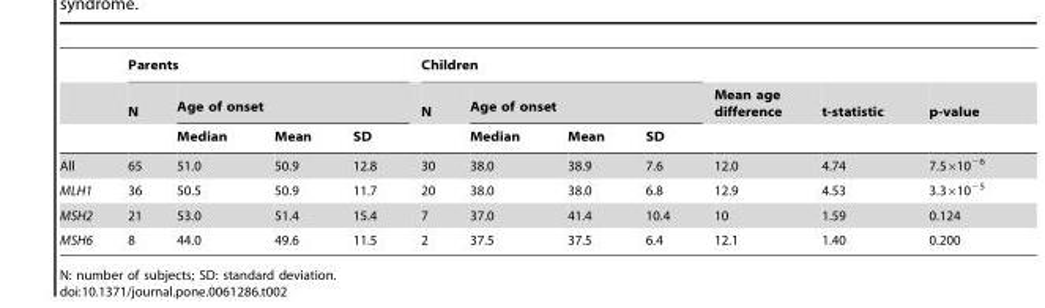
<table><thead><tr><td rowspan="3"></td><td colspan="4">Parents</td><td colspan="4">Children</td><td rowspan="3">Mean age difference</td><td rowspan="3">t-statistic</td><td rowspan="3">p-value</td></tr><tr><td rowspan="2">N</td><td colspan="3">Age of onset</td><td rowspan="2">N</td><td colspan="3">Age of onset</td></tr><tr><td>Median</td><td>Mean</td><td>SD</td><td>Median</td><td>Mean</td><td>SD</td></tr></thead><tbody><tr><td>All</td><td>65</td><td>51.0</td><td>50.9</td><td>12.8</td><td>30</td><td>38.0</td><td>38.9</td><td>7.6</td><td>12.0</td><td>4.74</td><td>7.5×10<sup>−6</sup></td></tr><tr><td>MLH1</td><td>36</td><td>50.5</td><td>50.9</td><td>11.7</td><td>20</td><td>38.0</td><td>38.0</td><td>6.8</td><td>12.9</td><td>4.53</td><td>3.3×10<sup>−5</sup></td></tr><tr><td>MSH2</td><td>21</td><td>53.0</td><td>51.4</td><td>15.4</td><td>7</td><td>37.0</td><td>41.4</td><td>10.4</td><td>10</td><td>1.59</td><td>0.124</td></tr><tr><td>MSH6</td><td>8</td><td>44.0</td><td>49.6</td><td>11.5</td><td>2</td><td>37.5</td><td>37.5</td><td>6.4</td><td>12.1</td><td>1.40</td><td>0.200</td></tr></tbody></table>